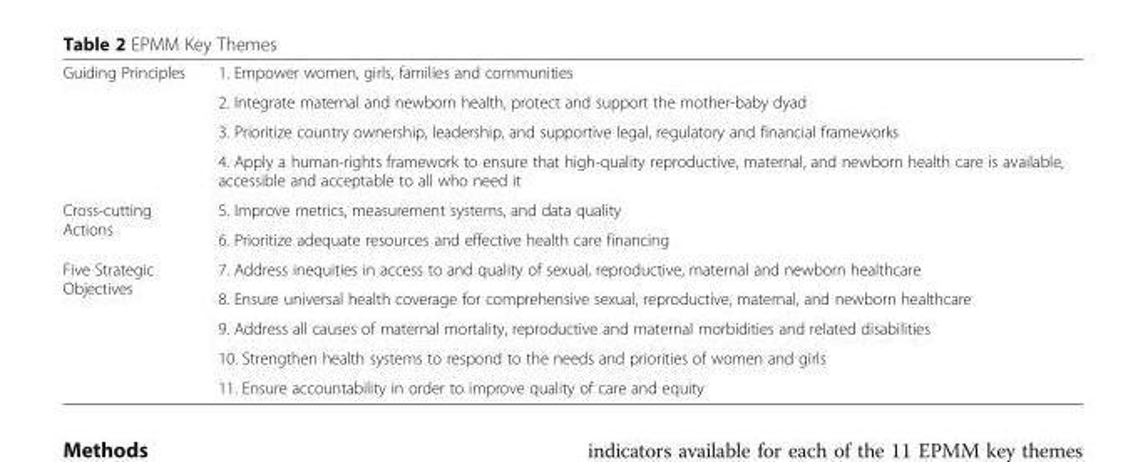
<table><tbody><tr><td rowspan="4">Guiding Principles</td><td>1. Empower women, girls, families and communities</td></tr><tr><td>2. Integrate maternal and newborn health, protect and support the mother-baby dyad</td></tr><tr><td>3. Prioritize country ownership, leadership, and supportive legal, regulatory and financial frameworks</td></tr><tr><td>4. Apply a human-rights framework to ensure that high-quality reproductive, maternal, and newborn health care is available, accessible and acceptable to all who need it</td></tr><tr><td rowspan="2">Cross-cutting Actions</td><td>5. Improve metrics, measurement systems, and data quality</td></tr><tr><td>6. Prioritize adequate resources and effective health care financing</td></tr><tr><td rowspan="5">Five Strategic Objectives</td><td>7. Address inequities in access to and quality of sexual, reproductive, maternal and newborn healthcare</td></tr><tr><td>8. Ensure universal health coverage for comprehensive sexual, reproductive, maternal, and newborn healthcare</td></tr><tr><td>9. Address all causes of maternal mortality, reproductive and maternal morbidities and related disabilities</td></tr><tr><td>10. Strengthen health systems to respond to the needs and priorities of women and girls</td></tr><tr><td>11. Ensure accountability in order to improve quality of care and equity</td></tr></tbody></table>